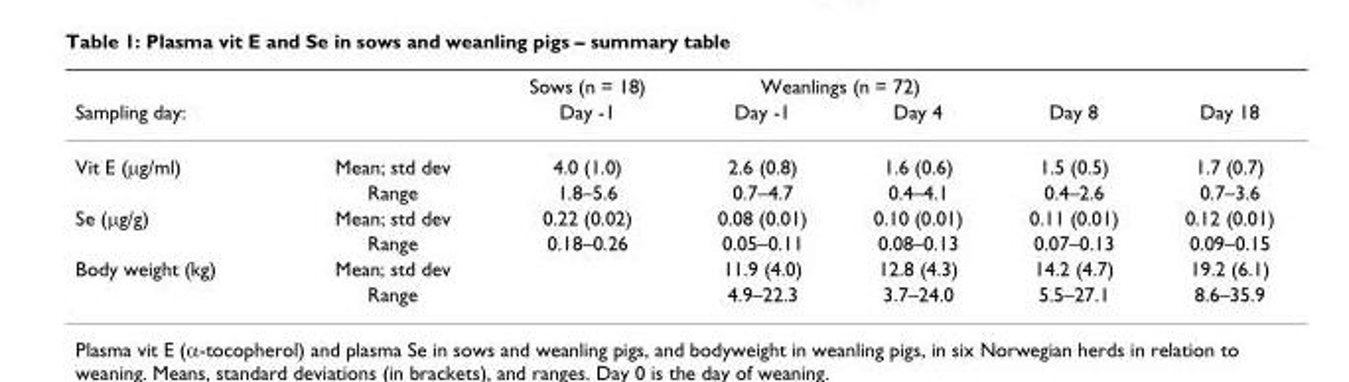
<table><thead><tr><td></td><td></td><td rowspan="2">Sows (n = 18) Day -1</td><td colspan="2">Weanlings (n = 72)</td><td rowspan="2">Day 8</td><td rowspan="2">Day 18</td></tr><tr><td colspan="2">Sampling day:</td><td>Day -1</td><td>Day 4</td></tr></thead><tbody><tr><td rowspan="2">Vit E (µg/ml)</td><td>Mean; std dev</td><td>4.0 (1.0)</td><td>2.6 (0.8)</td><td>1.6 (0.6)</td><td>1.5 (0.5)</td><td>1.7 (0.7)</td></tr><tr><td>Range</td><td>1.8–5.6</td><td>0.7–4.7</td><td>0.4–4.1</td><td>0.4–2.6</td><td>0.7–3.6</td></tr><tr><td rowspan="2">Se (µg/g)</td><td>Mean; std dev</td><td>0.22 (0.02)</td><td>0.08 (0.01)</td><td>0.10 (0.01)</td><td>0.11 (0.01)</td><td>0.12 (0.01)</td></tr><tr><td>Range</td><td>0.18–0.26</td><td>0.05–0.11</td><td>0.08–0.13</td><td>0.07–0.13</td><td>0.09–0.15</td></tr><tr><td rowspan="2">Body weight (kg)</td><td>Mean; std dev</td><td></td><td>11.9 (4.0)</td><td>12.8 (4.3)</td><td>14.2 (4.7)</td><td>19.2 (6.1)</td></tr><tr><td>Range</td><td></td><td>4.9–22.3</td><td>3.7–24.0</td><td>5.5–27.1</td><td>8.6–35.9</td></tr></tbody></table>